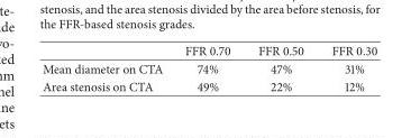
<table><thead><tr><td></td><td>FFR 0.70</td><td>FFR 0.50</td><td>FFR 0.30</td></tr></thead><tbody><tr><td>Mean diameter on CTA</td><td>74%</td><td>47%</td><td>31%</td></tr><tr><td>Area stenosis on CTA</td><td>49%</td><td>22%</td><td>12%</td></tr></tbody></table>